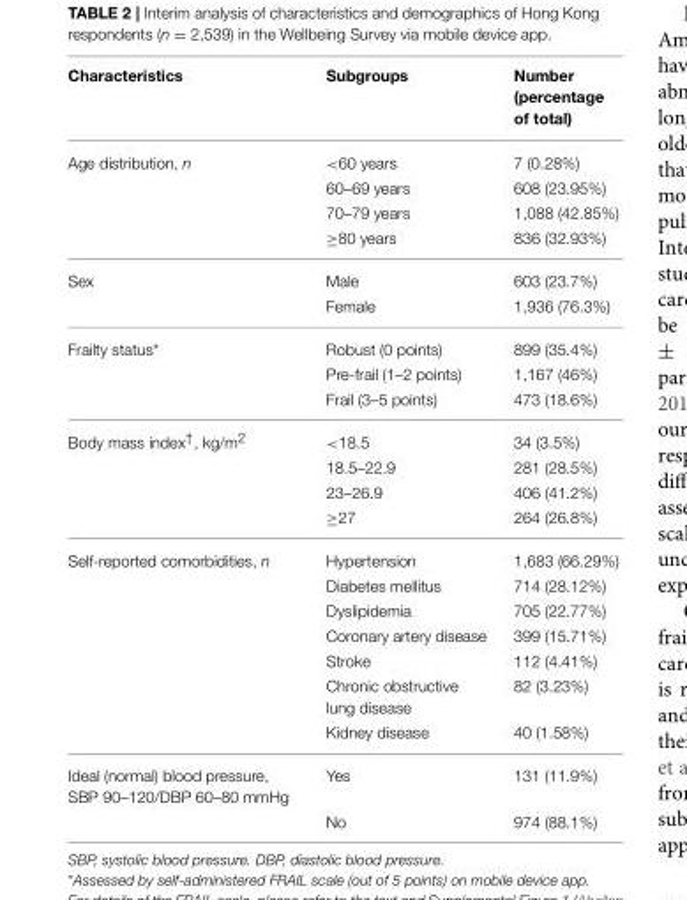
<table><thead><tr><td>Characteristics</td><td>Subgroups</td><td>Number (percentage of total)</td></tr></thead><tbody><tr><td rowspan="4">Age distribution, n</td><td>&lt;60 years</td><td>7 (0.28%)</td></tr><tr><td>60–69 years</td><td>608 (23.95%)</td></tr><tr><td>70–79 years</td><td>1,088 (42.85%)</td></tr><tr><td>≥80 years</td><td>836 (32.93%)</td></tr><tr><td rowspan="2">Sex</td><td>Male</td><td>603 (23.7%)</td></tr><tr><td>Female</td><td>1,936 (76.3%)</td></tr><tr><td rowspan="3">Frailty status*</td><td>Robust (0 points)</td><td>899 (35.4%)</td></tr><tr><td>Pre-frail (1–2 points)</td><td>1,167 (46%)</td></tr><tr><td>Frail (3–5 points)</td><td>473 (18.6%)</td></tr><tr><td rowspan="4">Body mass index<sup>†</sup>, kg/m<sup>2</sup></td><td>&lt;18.5</td><td>34 (3.5%)</td></tr><tr><td>18.5–22.9</td><td>281 (28.5%)</td></tr><tr><td>23–26.9</td><td>406 (41.2%)</td></tr><tr><td>≥27</td><td>264 (26.8%)</td></tr><tr><td rowspan="7">Self-reported comorbidities, n</td><td>Hypertension</td><td>1,683 (66.29%)</td></tr><tr><td>Diabetes mellitus</td><td>714 (28.12%)</td></tr><tr><td>Dyslipidemia</td><td>705 (22.77%)</td></tr><tr><td>Coronary artery disease</td><td>399 (15.71%)</td></tr><tr><td>Stroke</td><td>112 (4.41%)</td></tr><tr><td>Chronic obstructive lung disease</td><td>82 (3.23%)</td></tr><tr><td>Kidney disease</td><td>40 (1.58%)</td></tr><tr><td rowspan="2">Ideal (normal) blood pressure, SBP 90–120/DBP 60–80 mmHg</td><td>Yes</td><td>131 (11.9%)</td></tr><tr><td>No</td><td>974 (88.1%)</td></tr></tbody></table>